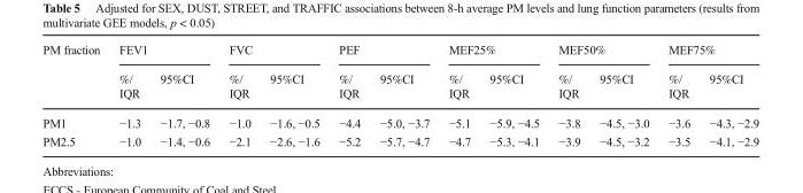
<table><thead><tr><td rowspan="2">PM fraction</td><td colspan="2">FEV1</td><td colspan="2">FVC</td><td colspan="2">PEF</td><td colspan="2">MEF25%</td><td colspan="2">MEF50%</td><td colspan="2">MEF75%</td></tr><tr><td>%/ IQR</td><td>95%CI</td><td>%/ IQR</td><td>95%CI</td><td>%/ IQR</td><td>95%CI</td><td>%/ IQR</td><td>95%CI</td><td>%/ IQR</td><td>95%CI</td><td>%/ IQR</td><td>95%CI</td></tr></thead><tbody><tr><td>PM1</td><td>−1.3</td><td>−1.7, −0.8</td><td>−1.0</td><td>−1.6, −0.5</td><td>−4.4</td><td>−5.0, −3.7</td><td>−5.1</td><td>−5.9, −4.5</td><td>−3.8</td><td>−4.5, −3.0</td><td>−3.6</td><td>−4.3, −2.9</td></tr><tr><td>PM2.5</td><td>−1.0</td><td>−1.4, −0.6</td><td>−2.1</td><td>−2.6, −1.6</td><td>−5.2</td><td>−5.7, −4.7</td><td>−4.7</td><td>−5.3, −4.1</td><td>−3.9</td><td>−4.5, −3.2</td><td>−3.5</td><td>−4.1, −2.9</td></tr></tbody></table>